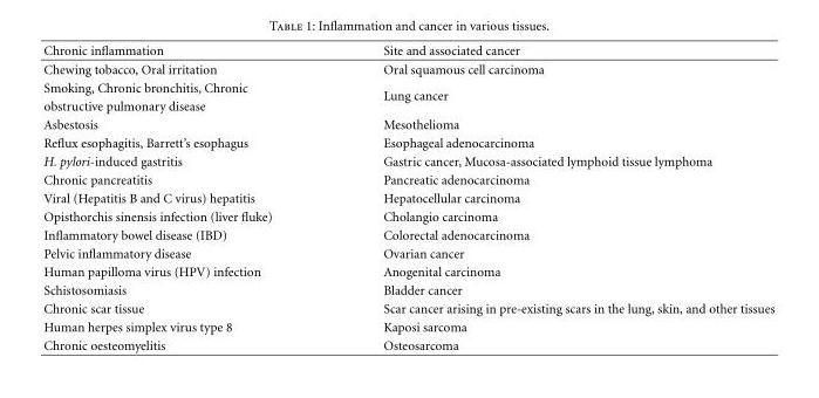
<table><thead><tr><td>Chronic inflammation</td><td>Site and associated cancer</td></tr></thead><tbody><tr><td>Chewing tobacco, Oral irritation</td><td>Oral squamous cell carcinoma</td></tr><tr><td>Smoking, Chronic bronchitis, Chronic</td><td rowspan="2">Lung cancer</td></tr><tr><td>obstructive pulmonary disease</td></tr><tr><td>Asbestosis</td><td>Mesothelioma</td></tr><tr><td>Reflux esophagitis, Barrett’s esophagus</td><td>Esophageal adenocarcinoma</td></tr><tr><td>H. pylori-induced gastritis</td><td>Gastric cancer, Mucosa-associated lymphoid tissue lymphoma</td></tr><tr><td>Chronic pancreatitis</td><td>Pancreatic adenocarcinoma</td></tr><tr><td>Viral (Hepatitis B and C virus) hepatitis</td><td>Hepatocellular carcinoma</td></tr><tr><td>Opisthorchis sinensis infection (liver fluke)</td><td>Cholangio carcinoma</td></tr><tr><td>Inflammatory bowel disease (IBD)</td><td>Colorectal adenocarcinoma</td></tr><tr><td>Pelvic inflammatory disease</td><td>Ovarian cancer</td></tr><tr><td>Human papilloma virus (HPV) infection</td><td>Anogenital carcinoma</td></tr><tr><td>Schistosomiasis</td><td>Bladder cancer</td></tr><tr><td>Chronic scar tissue</td><td>Scar cancer arising in pre-existing scars in the lung, skin, and other tissues</td></tr><tr><td>Human herpes simplex virus type 8</td><td>Kaposi sarcoma</td></tr><tr><td>Chronic oesteomyelitis</td><td>Osteosarcoma</td></tr></tbody></table>